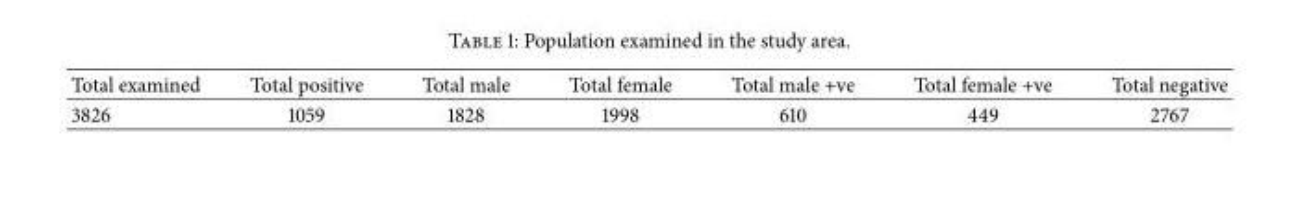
<table><tbody><tr><td>Total examined</td><td>Total positive</td><td>Total male</td><td>Total female</td><td>Total male +ve</td><td>Total female +ve</td><td>Total negative</td></tr><tr><td>3826</td><td>1059</td><td>1828</td><td>1998</td><td>610</td><td>449</td><td>2767</td></tr></tbody></table>